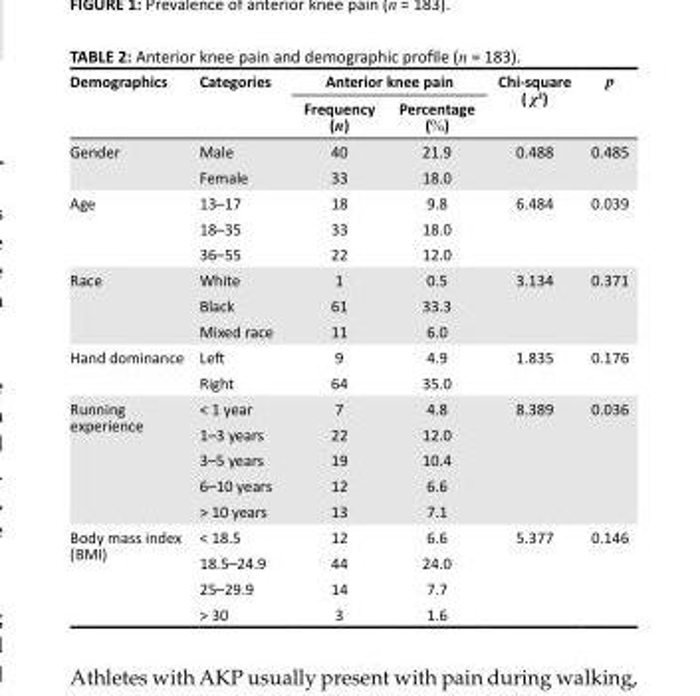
<table><thead><tr><td rowspan="2">Demographics</td><td rowspan="2">Categories</td><td colspan="2">Anterior knee pain</td><td rowspan="2">Chi-square ( χ<sup>2</sup>)</td><td rowspan="2">p</td></tr><tr><td>Frequency (n)</td><td>Percentage (%)</td></tr></thead><tbody><tr><td rowspan="2">Gender</td><td>Male</td><td>40</td><td>21.9</td><td>0.488</td><td>0.485</td></tr><tr><td>Female</td><td>33</td><td>18.0</td><td></td><td></td></tr><tr><td rowspan="3">Age</td><td>13–17</td><td>18</td><td>9.8</td><td>6.484</td><td>0.039</td></tr><tr><td>18–35</td><td>33</td><td>18.0</td><td></td><td></td></tr><tr><td>36–55</td><td>22</td><td>12.0</td><td></td><td></td></tr><tr><td rowspan="3">Race</td><td>White</td><td>1</td><td>0.5</td><td>3.134</td><td>0.371</td></tr><tr><td>Black</td><td>61</td><td>33.3</td><td></td><td></td></tr><tr><td>Mixed race</td><td>11</td><td>6.0</td><td></td><td></td></tr><tr><td rowspan="2">Hand dominance</td><td>Left</td><td>9</td><td>4.9</td><td>1.835</td><td>0.176</td></tr><tr><td>Right</td><td>64</td><td>35.0</td><td></td><td></td></tr><tr><td rowspan="5">Running experience</td><td>&lt; 1 year</td><td>7</td><td>4.8</td><td>8.389</td><td>0.036</td></tr><tr><td>1–3 years</td><td>22</td><td>12.0</td><td></td><td></td></tr><tr><td>3–5 years</td><td>19</td><td>10.4</td><td></td><td></td></tr><tr><td>6–10 years</td><td>12</td><td>6.6</td><td></td><td></td></tr><tr><td>&gt; 10 years</td><td>13</td><td>7.1</td><td></td><td></td></tr><tr><td rowspan="4">Body mass index (BMI)</td><td>&lt; 18.5</td><td>12</td><td>6.6</td><td>5.377</td><td>0.146</td></tr><tr><td>18.5–24.9</td><td>44</td><td>24.0</td><td></td><td></td></tr><tr><td>25–29.9</td><td>14</td><td>7.7</td><td></td><td></td></tr><tr><td>&gt; 30</td><td>3</td><td>1.6</td><td></td><td></td></tr></tbody></table>